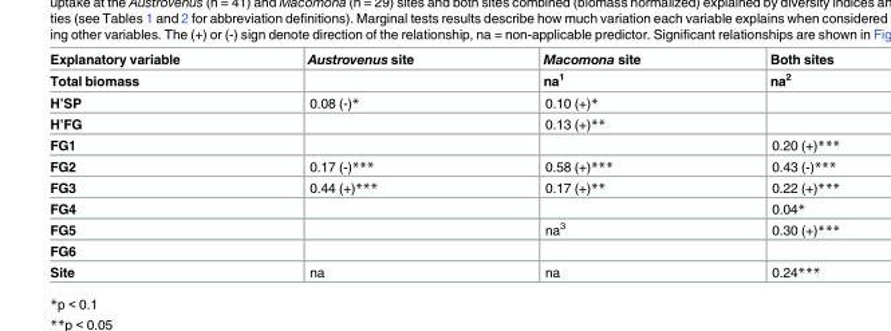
<table><thead><tr><td rowspan="2">Explanatory variable Total biomass</td><td rowspan="2">Austrovenus site</td><td rowspan="2">Macomona site na<sup>1</sup></td><td rowspan="2">Both sites na<sup>2</sup></td></tr><tr></tr></thead><tbody><tr><td>H’SP</td><td>0.08 (-)*</td><td>0.10 (+)*</td><td></td></tr><tr><td>H’FG</td><td></td><td>0.13 (+)**</td><td></td></tr><tr><td>FG1</td><td></td><td></td><td>0.20 (+)***</td></tr><tr><td>FG2</td><td>0.17 (-)***</td><td>0.58 (+)***</td><td>0.43 (-)***</td></tr><tr><td>FG3</td><td>0.44 (+)***</td><td>0.17 (+)**</td><td>0.22 (+)***</td></tr><tr><td>FG4</td><td></td><td></td><td>0.04*</td></tr><tr><td>FG5</td><td></td><td>na<sup>3</sup></td><td>0.30 (+)***</td></tr><tr><td colspan="4">FG6</td></tr><tr><td>Site</td><td>na</td><td>na</td><td>0.24***</td></tr></tbody></table>